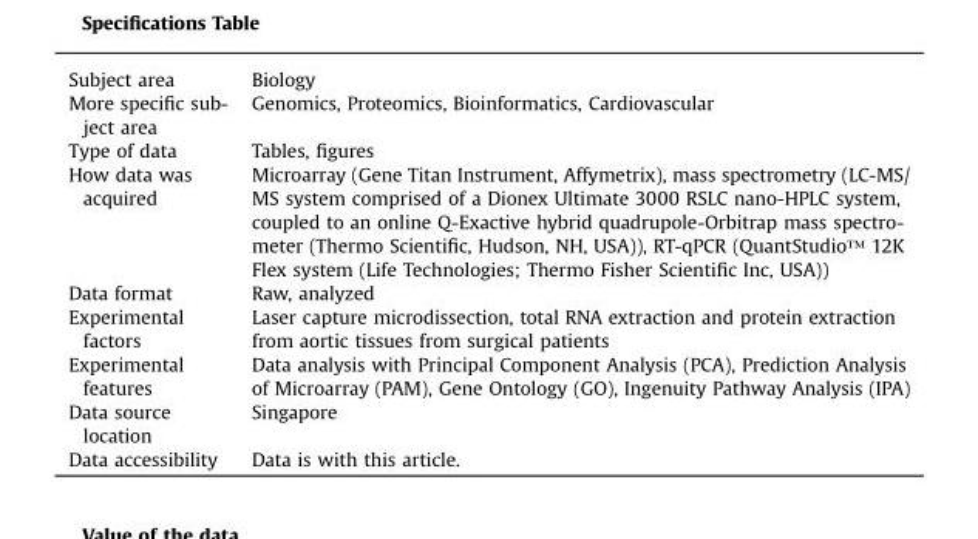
<table><tbody><tr><td>Subject area</td><td>Biology</td></tr><tr><td>More specific sub- ject area</td><td>Genomics, Proteomics, Bioinformatics, Cardiovascular</td></tr><tr><td>Type of data</td><td>Tables, figures</td></tr><tr><td>How data was acquired</td><td>Microarray (Gene Titan Instrument, Affymetrix), mass spectrometry (LC-MS/ MS system comprised of a Dionex Ultimate 3000 RSLC nano-HPLC system, coupled to an online Q-Exactive hybrid quadrupole-Orbitrap mass spectro- meter (Thermo Scientific, Hudson, NH, USA)), RT-qPCR (QuantStudio™ 12K Flex system (Life Technologies; Thermo Fisher Scientific Inc, USA))</td></tr><tr><td>Data format</td><td>Raw, analyzed</td></tr><tr><td>Experimental factors</td><td>Laser capture microdissection, total RNA extraction and protein extraction from aortic tissues from surgical patients</td></tr><tr><td>Experimental features</td><td>Data analysis with Principal Component Analysis (PCA), Prediction Analysis of Microarray (PAM), Gene Ontology (GO), Ingenuity Pathway Analysis (IPA)</td></tr><tr><td>Data source location</td><td>Singapore</td></tr><tr><td>Data accessibility</td><td>Data is with this article.</td></tr></tbody></table>